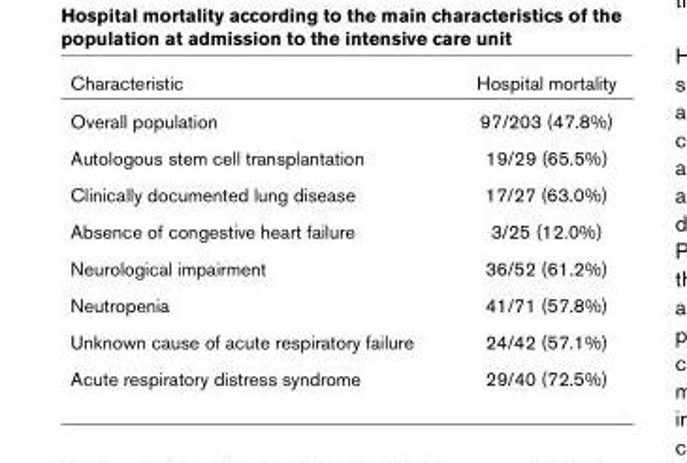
<table><thead><tr><td>Characteristic</td><td>Hospital mortality</td></tr></thead><tbody><tr><td>Overall population</td><td>97/203 (47.8%)</td></tr><tr><td>Autologous stem cell transplantation</td><td>19/29 (65.5%)</td></tr><tr><td>Clinically documented lung disease</td><td>17/27 (63.0%)</td></tr><tr><td>Absence of congestive heart failure</td><td>3/25 (12.0%)</td></tr><tr><td>Neurological impairment</td><td>36/52 (61.2%)</td></tr><tr><td>Neutropenia</td><td>41/71 (57.8%)</td></tr><tr><td>Unknown cause of acute respiratory failure</td><td>24/42 (57.1%)</td></tr><tr><td>Acute respiratory distress syndrome</td><td>29/40 (72.5%)</td></tr></tbody></table>